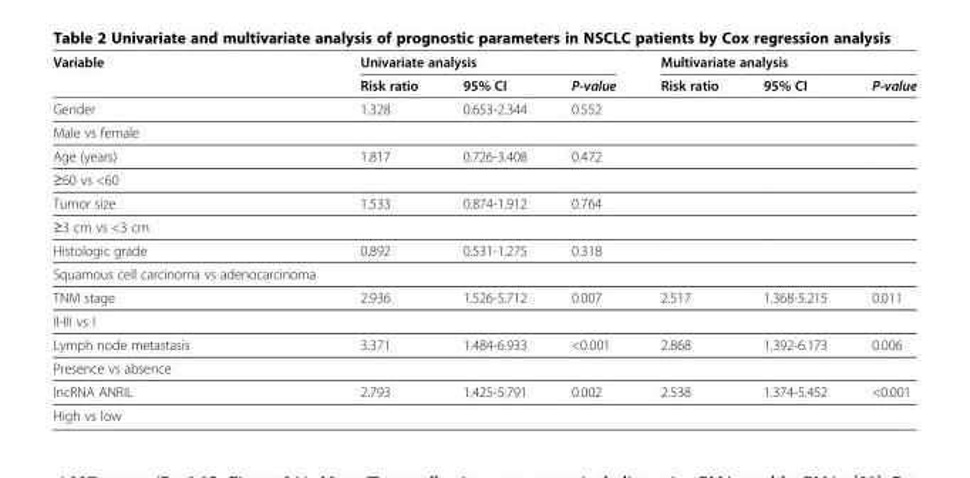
<table><thead><tr><td rowspan="2">Variable</td><td colspan="3">Univariate analysis</td><td colspan="3">Multivariate analysis</td></tr><tr><td>Risk ratio</td><td>95% CI</td><td>P-value</td><td>Risk ratio</td><td>95% CI</td><td>P-value</td></tr></thead><tbody><tr><td>Gender</td><td>1.328</td><td>0.653-2.344</td><td>0.552</td><td></td><td></td><td></td></tr><tr><td colspan="7">Male vs female</td></tr><tr><td>Age (years)</td><td>1.817</td><td>0.726-3.408</td><td>0.472</td><td></td><td></td><td></td></tr><tr><td colspan="7">≥60 vs &lt;60</td></tr><tr><td>Tumor size</td><td>1.533</td><td>0.874-1.912</td><td>0.764</td><td></td><td></td><td></td></tr><tr><td colspan="7">≥3 cm vs &lt;3 cm</td></tr><tr><td>Histologic grade</td><td>0.892</td><td>0.531-1.275</td><td>0.318</td><td></td><td></td><td></td></tr><tr><td colspan="7">Squamous cell carcinoma vs adenocarcinoma</td></tr><tr><td>TNM stage</td><td>2.936</td><td>1.526-5.712</td><td>0.007</td><td>2.517</td><td>1.368-5.215</td><td>0.011</td></tr><tr><td colspan="7">II-III vs I</td></tr><tr><td>Lymph node metastasis</td><td>3.371</td><td>1.484-6.933</td><td>&lt;0.001</td><td>2.868</td><td>1.392-6.173</td><td>0.006</td></tr><tr><td colspan="7">Presence vs absence</td></tr><tr><td>lncRNA ANRIL</td><td>2.793</td><td>1.425-5.791</td><td>0.002</td><td>2.538</td><td>1.374-5.452</td><td>&lt;0.001</td></tr><tr><td>High vs low</td><td></td><td></td><td></td><td></td><td></td><td></td></tr></tbody></table>